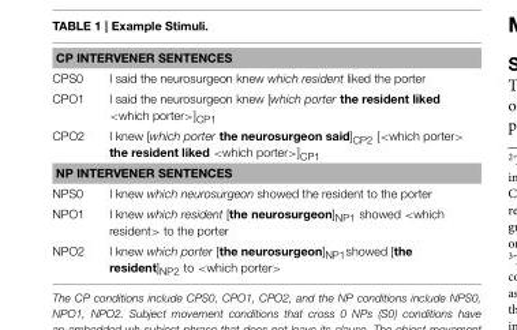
<table><tbody><tr><td colspan="2">CP INTERVENER SENTENCES</td></tr><tr><td>CPS0</td><td>I said the neurosurgeon knew which resident liked the porter</td></tr><tr><td>CPO1</td><td>I said the neurosurgeon knew [which porter the resident liked &lt;which porter&gt;]<sub>CP1</sub></td></tr><tr><td>CPO2</td><td>I knew [which porter the neurosurgeon said]<sub>CP2</sub> [&lt;which porter&gt; the resident liked &lt;which porter&gt;]<sub>CP1</sub></td></tr><tr><td colspan="2">NP INTERVENER SENTENCES</td></tr><tr><td>NPS0</td><td>I knew which neurosurgeon showed the resident to the porter</td></tr><tr><td>NPO1</td><td>I knew which resident [the neurosurgeon]<sub>NP1</sub> showed &lt;which resident&gt; to the porter</td></tr><tr><td>NPO2</td><td>I knew which porter [the neurosurgeon]<sub>NP1</sub>showed [the resident]<sub>NP2</sub> to &lt;which porter&gt;</td></tr></tbody></table>